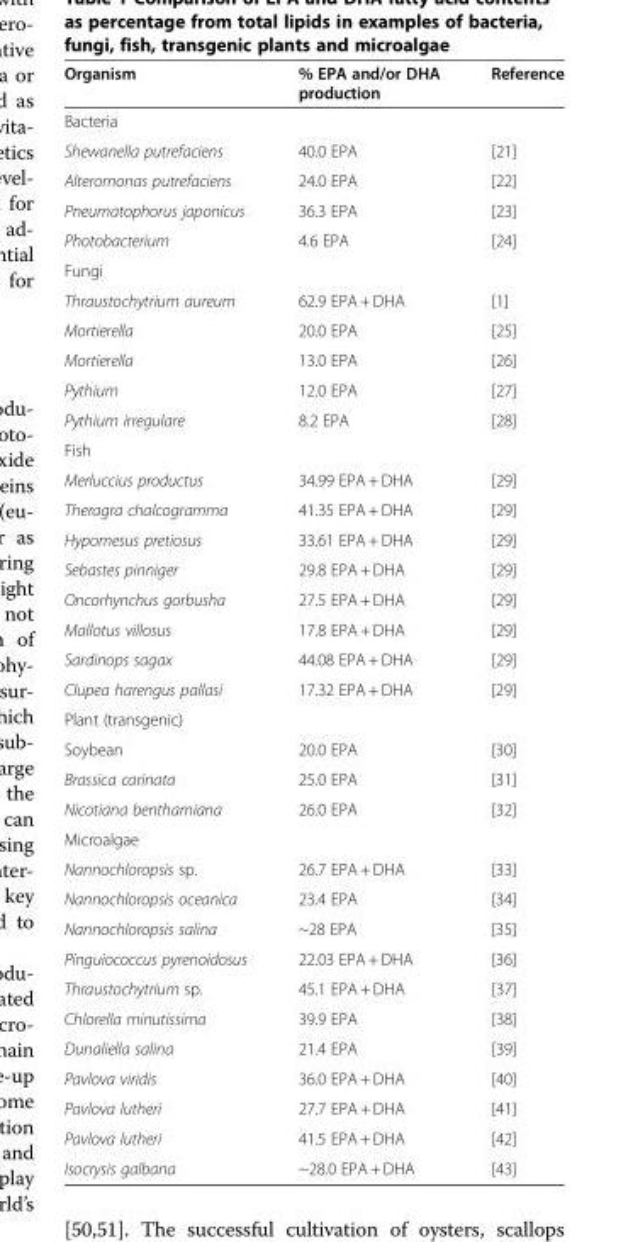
<table><thead><tr><td>Organism</td><td>% EPA and/or DHA production</td><td>Reference</td></tr></thead><tbody><tr><td colspan="3">Bacteria</td></tr><tr><td>Shewanella putrefaciens</td><td>40.0 EPA</td><td>[21]</td></tr><tr><td>Alteromonas putrefaciens</td><td>24.0 EPA</td><td>[22]</td></tr><tr><td>Pneumatophorus japonicus</td><td>36.3 EPA</td><td>[23]</td></tr><tr><td>Photobacterium</td><td>4.6 EPA</td><td>[24]</td></tr><tr><td colspan="3">Fungi</td></tr><tr><td>Thraustochytrium aureum</td><td>62.9 EPA + DHA</td><td>[1]</td></tr><tr><td>Mortierella</td><td>20.0 EPA</td><td>[25]</td></tr><tr><td>Mortierella</td><td>13.0 EPA</td><td>[26]</td></tr><tr><td>Pythium</td><td>12.0 EPA</td><td>[27]</td></tr><tr><td>Pythium irregulare</td><td>8.2 EPA</td><td>[28]</td></tr><tr><td colspan="3">Fish</td></tr><tr><td>Merluccius productus</td><td>34.99 EPA + DHA</td><td>[29]</td></tr><tr><td>Theragra chalcogramma</td><td>41.35 EPA + DHA</td><td>[29]</td></tr><tr><td>Hypomesus pretiosus</td><td>33.61 EPA + DHA</td><td>[29]</td></tr><tr><td>Sebastes pinniger</td><td>29.8 EPA + DHA</td><td>[29]</td></tr><tr><td>Oncorhynchus gorbusha</td><td>27.5 EPA + DHA</td><td>[29]</td></tr><tr><td>Mallotus villosus</td><td>17.8 EPA + DHA</td><td>[29]</td></tr><tr><td>Sardinops sagax</td><td>44.08 EPA + DHA</td><td>[29]</td></tr><tr><td>Clupea harengus pallasi</td><td>17.32 EPA + DHA</td><td>[29]</td></tr><tr><td colspan="3">Plant (transgenic)</td></tr><tr><td>Soybean</td><td>20.0 EPA</td><td>[30]</td></tr><tr><td>Brassica carinata</td><td>25.0 EPA</td><td>[31]</td></tr><tr><td>Nicotiana benthamiana</td><td>26.0 EPA</td><td>[32]</td></tr><tr><td colspan="3">Microalgae</td></tr><tr><td>Nannochloropsis sp.</td><td>26.7 EPA + DHA</td><td>[33]</td></tr><tr><td>Nannochloropsis oceanica</td><td>23.4 EPA</td><td>[34]</td></tr><tr><td>Nannochloropsis salina</td><td>~28 EPA</td><td>[35]</td></tr><tr><td>Pinguiococcus pyrenoidosus</td><td>22.03 EPA + DHA</td><td>[36]</td></tr><tr><td>Thraustochytrium sp.</td><td>45.1 EPA + DHA</td><td>[37]</td></tr><tr><td>Chlorella minutissima</td><td>39.9 EPA</td><td>[38]</td></tr><tr><td>Dunaliella salina</td><td>21.4 EPA</td><td>[39]</td></tr><tr><td>Pavlova viridis</td><td>36.0 EPA + DHA</td><td>[40]</td></tr><tr><td>Pavlova lutheri</td><td>27.7 EPA + DHA</td><td>[41]</td></tr><tr><td>Pavlova lutheri</td><td>41.5 EPA + DHA</td><td>[42]</td></tr><tr><td>Isocrysis galbana</td><td>~28.0 EPA + DHA</td><td>[43]</td></tr></tbody></table>